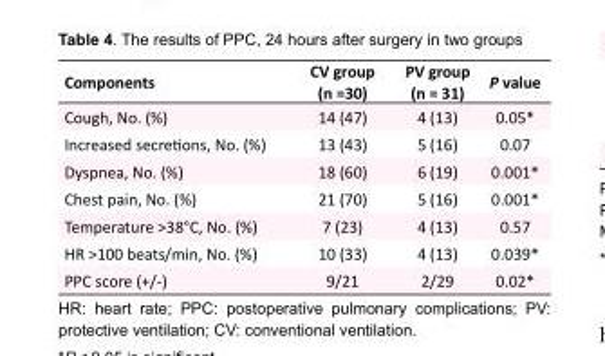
<table><tbody><tr><td>Components</td><td>CV group (n =30)</td><td>PV group (n = 31)</td><td>P value</td></tr><tr><td>Cough, No. (%)</td><td>14 (47)</td><td>4 (13)</td><td>0.05*</td></tr><tr><td>Increased secretions, No. (%)</td><td>13 (43)</td><td>5 (16)</td><td>0.07</td></tr><tr><td>Dyspnea, No. (%)</td><td>18 (60)</td><td>6 (19)</td><td>0.001*</td></tr><tr><td>Chest pain, No. (%)</td><td>21 (70)</td><td>5 (16)</td><td>0.001*</td></tr><tr><td>Temperature &gt;38°C, No. (%)</td><td>7 (23)</td><td>4 (13)</td><td>0.57</td></tr><tr><td>HR &gt;100 beats/min, No. (%)</td><td>10 (33)</td><td>4 (13)</td><td>0.039*</td></tr><tr><td>PPC score (+/-)</td><td>9/21</td><td>2/29</td><td>0.02*</td></tr></tbody></table>